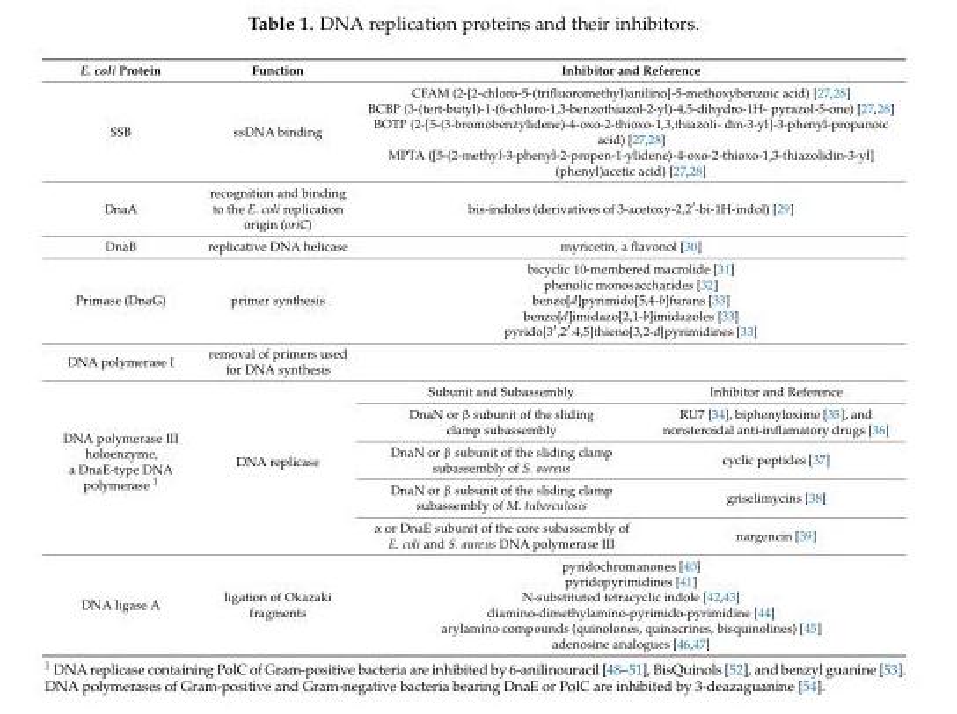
<table><thead><tr><td>E. coli Protein</td><td>Function</td><td colspan="2">Inhibitor and Reference</td></tr></thead><tbody><tr><td>SSB</td><td>ssDNA binding</td><td colspan="2">CFAM (2-[2-chloro-5-(trifluoromethyl)anilino]-5-methoxybenzoic acid) [27,28] BCBP (3-(tert-butyl)-1-(6-chloro-1,3-benzothiazol-2-yl)-4,5-dihydro-1H- pyrazol-5-one) [27,28] BOTP (2-[5-(3-bromobenzylidene)-4-oxo-2-thioxo-1,3,thiazoli- din-3-yl]-3-phenyl-propanoic acid) [27,28] MPTA ([5-(2-methyl-3-phenyl-2-propen-1-ylidene)-4-oxo-2-thioxo-1,3-thiazolidin-3-yl] (phenyl)acetic acid) [27,28]</td></tr><tr><td>DnaA</td><td>recognition and binding to the E. coli replication origin (oriC)</td><td colspan="2">bis-indoles (derivatives of 3-acetoxy-2,2′-bi-1H-indol) [29]</td></tr><tr><td>DnaB</td><td>replicative DNA helicase</td><td colspan="2">myricetin, a flavonol [30]</td></tr><tr><td>Primase (DnaG)</td><td>primer synthesis</td><td colspan="2">bicyclic 10-membered macrolide [31] phenolic monosaccharides [32] benzo[d]pyrimido[5,4-b]furans [33] benzo[d]imidazo[2,1-b]imidazoles [33] pyrido[3′,2′:4,5]thieno[3,2-d]pyrimidines [33]</td></tr><tr><td>DNA polymerase I</td><td>removal of primers used for DNA synthesis</td><td colspan="2"></td></tr><tr><td rowspan="5">DNA polymerase III holoenzyme, a DnaE-type DNA polymerase <sup>1</sup></td><td rowspan="5">DNA replicase</td><td>Subunit and Subassembly</td><td>Inhibitor and Reference</td></tr><tr><td>DnaN or β subunit of the sliding clamp subassembly</td><td>RU7 [34], biphenyloxime [35], and nonsteroidal anti-inflamatory drugs [36]</td></tr><tr><td>DnaN or β subunit of the sliding clamp subassembly of S. aureus</td><td>cyclic peptides [37]</td></tr><tr><td>DnaN or β subunit of the sliding clamp subassembly of M. tuberculosis</td><td>griselimycins [38]</td></tr><tr><td>α or DnaE subunit of the core subassembly of E. coli and S. aureus DNA polymerase III</td><td>nargencin [39]</td></tr><tr><td>DNA ligase A</td><td>ligation of Okazaki fragments</td><td colspan="2">pyridochromanones [40] pyridopyrimidines [41] N-substituted tetracyclic indole [42,43] diamino-dimethylamino-pyrimido-pyrimidine [44] arylamino compounds (quinolones, quinacrines, bisquinolines) [45] adenosine analogues [46,47]</td></tr></tbody></table>